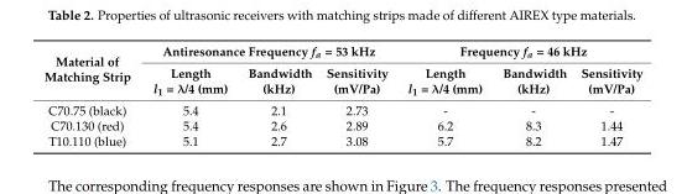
<table><thead><tr><td rowspan="2">Material of Matching Strip</td><td colspan="3">Antiresonance Frequency f<sub>a</sub> = 53 kHz</td><td colspan="3">Frequency f<sub>a</sub> = 46 kHz</td></tr><tr><td>Length l<sub>1</sub> = λ/4 (mm)</td><td>Bandwidth (kHz)</td><td>Sensitivity (mV/Pa)</td><td>Length l<sub>1</sub> = λ/4 (mm)</td><td>Bandwidth (kHz)</td><td>Sensitivity (mV/Pa)</td></tr></thead><tbody><tr><td>C70.75 (black)</td><td>5.4</td><td>2.1</td><td>2.73</td><td>-</td><td>-</td><td>-</td></tr><tr><td>C70.130 (red)</td><td>5.4</td><td>2.6</td><td>2.89</td><td>6.2</td><td>8.3</td><td>1.44</td></tr><tr><td>T10.110 (blue)</td><td>5.1</td><td>2.7</td><td>3.08</td><td>5.7</td><td>8.2</td><td>1.47</td></tr></tbody></table>